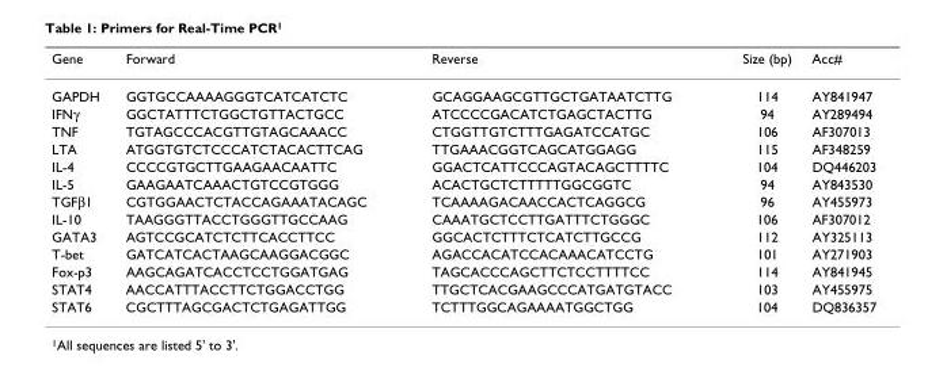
<table><thead><tr><td>Gene</td><td>Forward</td><td>Reverse</td><td>Size (bp)</td><td>Acc#</td></tr></thead><tbody><tr><td>GAPDH</td><td>GGTGCCAAAAGGGTCATCATCTC</td><td>GCAGGAAGCGTTGCTGATAATCTTG</td><td>114</td><td>AY841947</td></tr><tr><td>IFNγ</td><td>GGCTATTTCTGGCTGTTACTGCC</td><td>ATCCCCGACATCTGAGCTACTTG</td><td>94</td><td>AY289494</td></tr><tr><td>TNF</td><td>TGTAGCCCACGTTGTAGCAAACC</td><td>CTGGTTGTCTTTGAGATCCATGC</td><td>106</td><td>AF307013</td></tr><tr><td>LTA</td><td>ATGGTGTCTCCCATCTACACTTCAG</td><td>TTGAAACGGTCAGCATGGAGG</td><td>115</td><td>AF348259</td></tr><tr><td>IL-4</td><td>CCCCGTGCTTGAAGAACAATTC</td><td>GGACTCATTCCCAGTACAGCTTTTC</td><td>104</td><td>DQ446203</td></tr><tr><td>IL-5</td><td>GAAGAATCAAACTGTCCGTGGG</td><td>ACACTGCTCTTTTTGGCGGTC</td><td>94</td><td>AY843530</td></tr><tr><td>TGFβ1</td><td>CGTGGAACTCTACCAGAAATACAGC</td><td>TCAAAAGACAACCACTCAGGCG</td><td>96</td><td>AY455973</td></tr><tr><td>IL-10</td><td>TAAGGGTTACCTGGGTTGCCAAG</td><td>CAAATGCTCCTTGATTTCTGGGC</td><td>106</td><td>AF307012</td></tr><tr><td>GATA3</td><td>AGTCCGCATCTCTTCACCTTCC</td><td>GGCACTCTTTCTCATCTTGCCG</td><td>112</td><td>AY325113</td></tr><tr><td>T-bet</td><td>GATCATCACTAAGCAAGGACGGC</td><td>AGACCACATCCACAAACATCCTG</td><td>101</td><td>AY271903</td></tr><tr><td>Fox-p3</td><td>AAGCAGATCACCTCCTGGATGAG</td><td>TAGCACCCAGCTTCTCCTTTTCC</td><td>114</td><td>AY841945</td></tr><tr><td>STAT4</td><td>AACCATTTACCTTCTGGACCTGG</td><td>TTGCTCACGAAGCCCATGATGTACC</td><td>103</td><td>AY455975</td></tr><tr><td>STAT6</td><td>CGCTTTAGCGACTCTGAGATTGG</td><td>TCTTTGGCAGAAAATGGCTGG</td><td>104</td><td>DQ836357</td></tr></tbody></table>